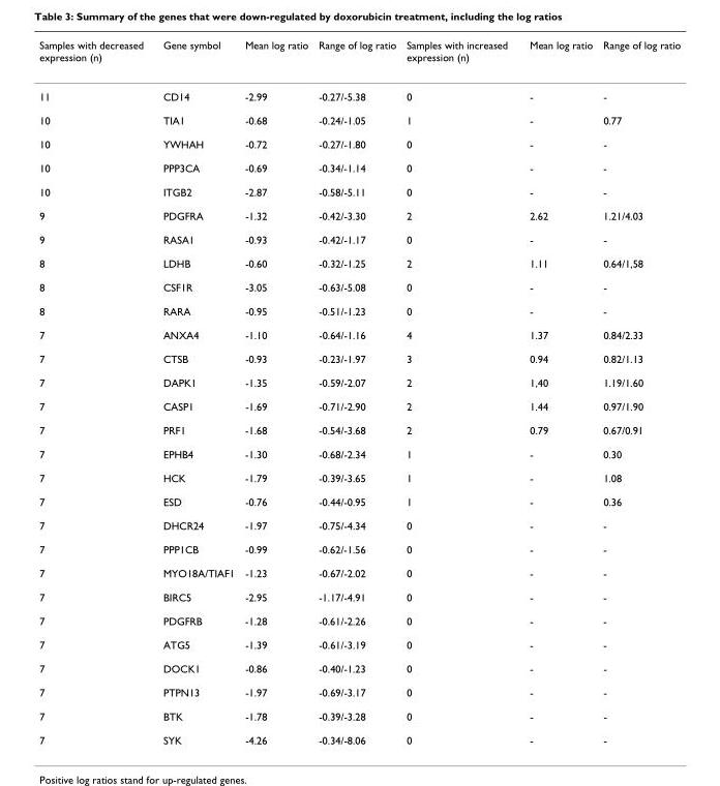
<table><thead><tr><td>Samples with decreased expression (n)</td><td>Gene symbol</td><td>Mean log ratio</td><td>Range of log ratio</td><td>Samples with increased expression (n)</td><td>Mean log ratio</td><td>Range of log ratio</td></tr></thead><tbody><tr><td>11</td><td>CD14</td><td>-2.99</td><td>-0.27/-5.38</td><td>0</td><td>-</td><td>-</td></tr><tr><td>10</td><td>TIA1</td><td>-0.68</td><td>-0.24/-1.05</td><td>1</td><td>-</td><td>0.77</td></tr><tr><td>10</td><td>YWHAH</td><td>-0.72</td><td>-0.27/-1.80</td><td>0</td><td>-</td><td>-</td></tr><tr><td>10</td><td>PPP3CA</td><td>-0.69</td><td>-0.34/-1.14</td><td>0</td><td>-</td><td>-</td></tr><tr><td>10</td><td>ITGB2</td><td>-2.87</td><td>-0.58/-5.11</td><td>0</td><td>-</td><td>-</td></tr><tr><td>9</td><td>PDGFRA</td><td>-1.32</td><td>-0.42/-3.30</td><td>2</td><td>2.62</td><td>1.21/4.03</td></tr><tr><td>9</td><td>RASA1</td><td>-0.93</td><td>-0.42/-1.17</td><td>0</td><td>-</td><td>-</td></tr><tr><td>8</td><td>LDHB</td><td>-0.60</td><td>-0.32/-1.25</td><td>2</td><td>1.11</td><td>0.64/1,58</td></tr><tr><td>8</td><td>CSF1R</td><td>-3.05</td><td>-0.63/-5.08</td><td>0</td><td>-</td><td>-</td></tr><tr><td>8</td><td>RARA</td><td>-0.95</td><td>-0.51/-1.23</td><td>0</td><td>-</td><td>-</td></tr><tr><td>7</td><td>ANXA4</td><td>-1.10</td><td>-0.64/-1.16</td><td>4</td><td>1.37</td><td>0.84/2.33</td></tr><tr><td>7</td><td>CTSB</td><td>-0.93</td><td>-0.23/-1.97</td><td>3</td><td>0.94</td><td>0.82/1.13</td></tr><tr><td>7</td><td>DAPK1</td><td>-1.35</td><td>-0.59/-2.07</td><td>2</td><td>1,40</td><td>1.19/1.60</td></tr><tr><td>7</td><td>CASP1</td><td>-1.69</td><td>-0.71/-2.90</td><td>2</td><td>1.44</td><td>0.97/1.90</td></tr><tr><td>7</td><td>PRF1</td><td>-1.68</td><td>-0.54/-3.68</td><td>2</td><td>0.79</td><td>0.67/0.91</td></tr><tr><td>7</td><td>EPHB4</td><td>-1.30</td><td>-0.68/-2.34</td><td>1</td><td>-</td><td>0.30</td></tr><tr><td>7</td><td>HCK</td><td>-1.79</td><td>-0.39/-3.65</td><td>1</td><td>-</td><td>1.08</td></tr><tr><td>7</td><td>ESD</td><td>-0.76</td><td>-0.44/-0.95</td><td>1</td><td>-</td><td>0.36</td></tr><tr><td>7</td><td>DHCR24</td><td>-1.97</td><td>-0.75/-4.34</td><td>0</td><td>-</td><td>-</td></tr><tr><td>7</td><td>PPP1CB</td><td>-0.99</td><td>-0.62/-1.56</td><td>0</td><td>-</td><td>-</td></tr><tr><td>7</td><td>MYO18A/TIAF1</td><td>-1.23</td><td>-0.67/-2.02</td><td>0</td><td>-</td><td>-</td></tr><tr><td>7</td><td>BIRC5</td><td>-2.95</td><td>-1.17/-4.91</td><td>0</td><td>-</td><td>-</td></tr><tr><td>7</td><td>PDGFRB</td><td>-1.28</td><td>-0.61/-2.26</td><td>0</td><td>-</td><td>-</td></tr><tr><td>7</td><td>ATG5</td><td>-1.39</td><td>-0.61/-3.19</td><td>0</td><td>-</td><td>-</td></tr><tr><td>7</td><td>DOCK1</td><td>-0.86</td><td>-0.40/-1.23</td><td>0</td><td>-</td><td>-</td></tr><tr><td>7</td><td>PTPN13</td><td>-1.97</td><td>-0.69/-3.17</td><td>0</td><td>-</td><td>-</td></tr><tr><td>7</td><td>BTK</td><td>-1.78</td><td>-0.39/-3.28</td><td>0</td><td>-</td><td>-</td></tr><tr><td>7</td><td>SYK</td><td>-4.26</td><td>-0.34/-8.06</td><td>0</td><td>-</td><td>-</td></tr></tbody></table>